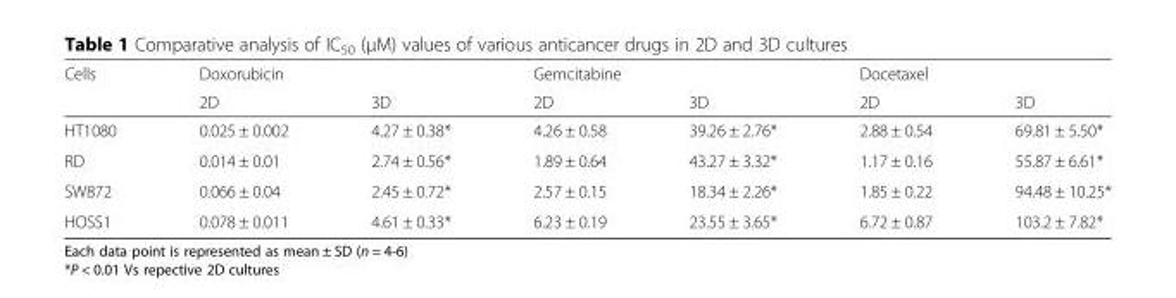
<table><thead><tr><td rowspan="2">Cells</td><td colspan="2">Doxorubicin</td><td colspan="2">Gemcitabine</td><td colspan="2">Docetaxel</td></tr><tr><td>2D</td><td>3D</td><td>2D</td><td>3D</td><td>2D</td><td>3D</td></tr></thead><tbody><tr><td>HT1080</td><td>0.025 ± 0.002</td><td>4.27 ± 0.38*</td><td>4.26 ± 0.58</td><td>39.26 ± 2.76*</td><td>2.88 ± 0.54</td><td>69.81 ± 5.50*</td></tr><tr><td>RD</td><td>0.014 ± 0.01</td><td>2.74 ± 0.56*</td><td>1.89 ± 0.64</td><td>43.27 ± 3.32*</td><td>1.17 ± 0.16</td><td>55.87 ± 6.61*</td></tr><tr><td>SW872</td><td>0.066 ± 0.04</td><td>2.45 ± 0.72*</td><td>2.57 ± 0.15</td><td>18.34 ± 2.26*</td><td>1.85 ± 0.22</td><td>94.48 ± 10.25*</td></tr><tr><td>HOSS1</td><td>0.078 ± 0.011</td><td>4.61 ± 0.33*</td><td>6.23 ± 0.19</td><td>23.55 ± 3.65*</td><td>6.72 ± 0.87</td><td>103.2 ± 7.82*</td></tr></tbody></table>